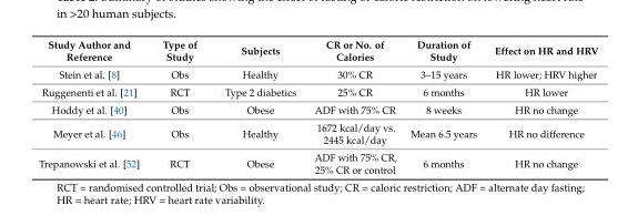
<table><thead><tr><td>Study Author and Reference</td><td>Type of Study</td><td>Subjects</td><td>CR or No. of Calories</td><td>Duration of Study</td><td>Effect on HR and HRV</td></tr></thead><tbody><tr><td>Stein et al. [8]</td><td>Obs</td><td>Healthy</td><td>30% CR</td><td>3–15 years</td><td>HR lower; HRV higher</td></tr><tr><td>Ruggenenti et al. [21]</td><td>RCT</td><td>Type 2 diabetics</td><td>25% CR</td><td>6 months</td><td>HR lower</td></tr><tr><td>Hoddy et al. [40]</td><td>Obs</td><td>Obese</td><td>ADF with 75% CR</td><td>8 weeks</td><td>HR no change</td></tr><tr><td>Meyer et al. [46]</td><td>Obs</td><td>Healthy</td><td>1672 kcal/day vs. 2445 kcal/day</td><td>Mean 6.5 years</td><td>HR no difference</td></tr><tr><td>Trepanowski et al. [52]</td><td>RCT</td><td>Obese</td><td>ADF with 75% CR, 25% CR or control</td><td>6 months</td><td>HR no change</td></tr></tbody></table>